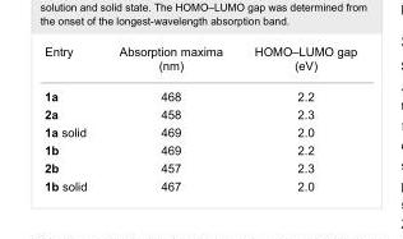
<table><tbody><tr><td>Entry</td><td>Absorption maxima (nm)</td><td>HOMO–LUMO gap (eV)</td></tr><tr><td>1a</td><td>468</td><td>2.2</td></tr><tr><td>2a</td><td>458</td><td>2.3</td></tr><tr><td>1a solid</td><td>469</td><td>2.0</td></tr><tr><td>1b</td><td>469</td><td>2.2</td></tr><tr><td>2b</td><td>457</td><td>2.3</td></tr><tr><td>1b solid</td><td>467</td><td>2.0</td></tr></tbody></table>